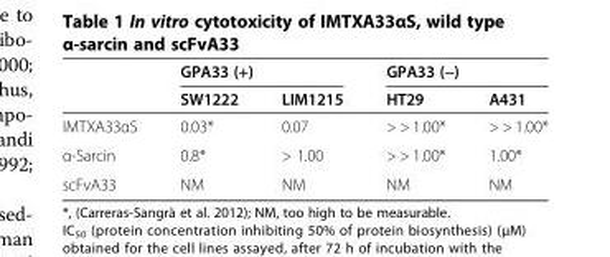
<table><thead><tr><td rowspan="2"></td><td colspan="2">GPA33 (+)</td><td colspan="2">GPA33 (−)</td></tr><tr><td>SW1222</td><td>LIM1215</td><td>HT29</td><td>A431</td></tr></thead><tbody><tr><td>IMTXA33αS</td><td>0.03*</td><td>0.07</td><td>&gt; &gt; 1.00*</td><td>&gt; &gt; 1.00*</td></tr><tr><td>α-Sarcin</td><td>0.8*</td><td>&gt; 1.00</td><td>&gt; &gt; 1.00*</td><td>1.00*</td></tr><tr><td>scFvA33</td><td>NM</td><td>NM</td><td>NM</td><td>NM</td></tr></tbody></table>